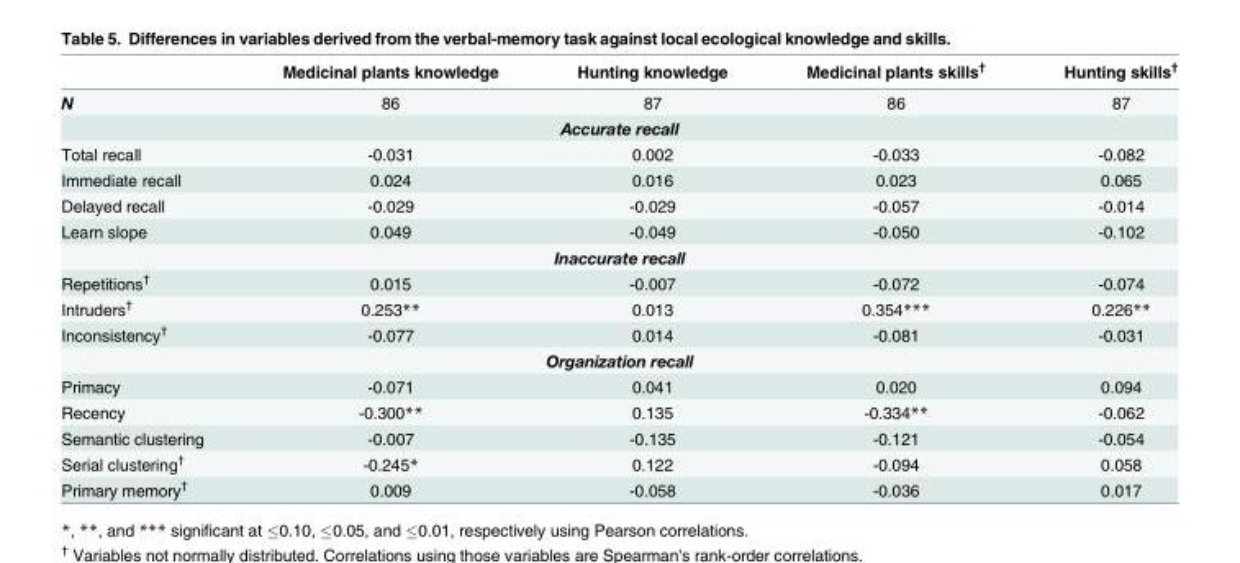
<table><thead><tr><td></td><td>Medicinal plants knowledge</td><td>Hunting knowledge</td><td>Medicinal plants skills<sup>†</sup></td><td>Hunting skills<sup>†</sup></td></tr></thead><tbody><tr><td>N</td><td>86</td><td>87</td><td>86</td><td>87</td></tr><tr><td colspan="5">Accurate recall</td></tr><tr><td>Total recall</td><td>-0.031</td><td>0.002</td><td>-0.033</td><td>-0.082</td></tr><tr><td>Immediate recall</td><td>0.024</td><td>0.016</td><td>0.023</td><td>0.065</td></tr><tr><td>Delayed recall</td><td>-0.029</td><td>-0.029</td><td>-0.057</td><td>-0.014</td></tr><tr><td>Learn slope</td><td>0.049</td><td>-0.049</td><td>-0.050</td><td>-0.102</td></tr><tr><td colspan="5">Inaccurate recall</td></tr><tr><td>Repetitions<sup>†</sup></td><td>0.015</td><td>-0.007</td><td>-0.072</td><td>-0.074</td></tr><tr><td>Intruders<sup>†</sup></td><td>0.253**</td><td>0.013</td><td>0.354***</td><td>0.226**</td></tr><tr><td>Inconsistency<sup>†</sup></td><td>-0.077</td><td>0.014</td><td>-0.081</td><td>-0.031</td></tr><tr><td colspan="5">Organization recall</td></tr><tr><td>Primacy</td><td>-0.071</td><td>0.041</td><td>0.020</td><td>0.094</td></tr><tr><td>Recency</td><td>-0.300**</td><td>0.135</td><td>-0.334**</td><td>-0.062</td></tr><tr><td>Semantic clustering</td><td>-0.007</td><td>-0.135</td><td>-0.121</td><td>-0.054</td></tr><tr><td>Serial clustering<sup>†</sup></td><td>-0.245*</td><td>0.122</td><td>-0.094</td><td>0.058</td></tr><tr><td>Primary memory<sup>†</sup></td><td>0.009</td><td>-0.058</td><td>-0.036</td><td>0.017</td></tr></tbody></table>